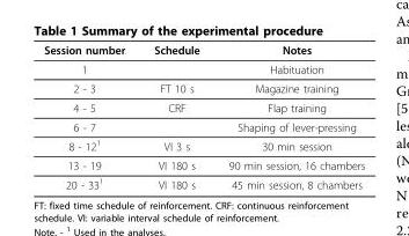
<table><thead><tr><td>Session number</td><td>Schedule</td><td>Notes</td></tr></thead><tbody><tr><td>1</td><td></td><td>Habituation</td></tr><tr><td>2 - 3</td><td>FT 10 s</td><td>Magazine training</td></tr><tr><td>4 - 5</td><td>CRF</td><td>Flap training</td></tr><tr><td>6 - 7</td><td></td><td>Shaping of lever-pressing</td></tr><tr><td>8 - 12<sup>1</sup></td><td>VI 3 s</td><td>30 min session</td></tr><tr><td>13 - 19</td><td>VI 180 s</td><td>90 min session, 16 chambers</td></tr><tr><td>20 - 33<sup>1</sup></td><td>VI 180 s</td><td>45 min session, 8 chambers</td></tr></tbody></table>